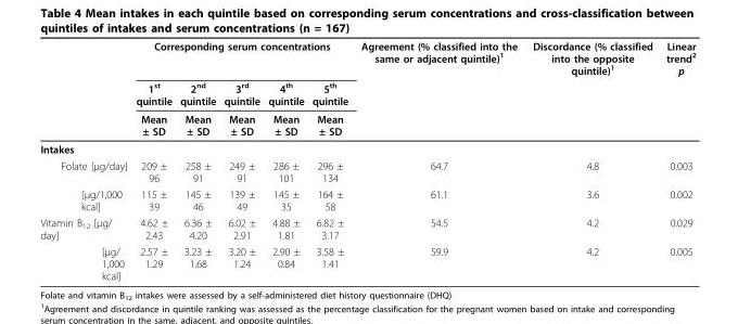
<table><thead><tr><td rowspan="3"></td><td colspan="5">Corresponding serum concentrations</td><td rowspan="3">Agreement (% classified into the same or adjacent quintile)<sup>1</sup></td><td rowspan="3">Discordance (% classified into the opposite quintile)<sup>1</sup></td><td rowspan="3">Linear trend<sup>2</sup> p</td></tr><tr><td rowspan="2">1<sup>st</sup> quintile Mean ± SD</td><td rowspan="2">2<sup>nd</sup> quintile Mean ± SD</td><td rowspan="2">3<sup>rd</sup> quintile Mean ± SD</td><td rowspan="2">4<sup>th</sup> quintile Mean ± SD</td><td rowspan="2">5<sup>th</sup> quintile Mean ± SD</td></tr><tr></tr></thead><tbody><tr><td colspan="9">Intakes</td></tr><tr><td>Folate [μg/day]</td><td>209 ± 96</td><td>258 ± 91</td><td>249 ± 91</td><td>286 ± 101</td><td>296 ± 134</td><td>64.7</td><td>4.8</td><td>0.003</td></tr><tr><td>[μg/1,000 kcal]</td><td>115 ± 39</td><td>145 ± 46</td><td>139 ± 49</td><td>145 ± 35</td><td>164 ± 58</td><td>61.1</td><td>3.6</td><td>0.002</td></tr><tr><td>Vitamin B<sub>12</sub> [μg/ day]</td><td>4.62 ± 2.43</td><td>6.36 ± 4.20</td><td>6.02 ± 2.91</td><td>4.88 ± 1.81</td><td>6.82 ± 3.17</td><td>54.5</td><td>4.2</td><td>0.029</td></tr><tr><td>[μg/ 1,000 kcal]</td><td>2.57 ± 1.29</td><td>3.23 ± 1.68</td><td>3.20 ± 1.24</td><td>2.90 ± 0.84</td><td>3.58 ± 1.41</td><td>59.9</td><td>4.2</td><td>0.005</td></tr></tbody></table>